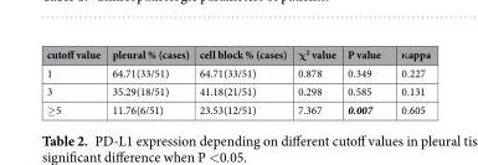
<table><thead><tr><td>cutoff value</td><td>pleural % (cases)</td><td>cell block % (cases)</td><td>χ<sup>2</sup> value</td><td>P value</td><td>κappa</td></tr></thead><tbody><tr><td>1</td><td>64.71(33/51)</td><td>64.71(33/51)</td><td>0.878</td><td>0.349</td><td>0.227</td></tr><tr><td>3</td><td>35.29(18/51)</td><td>41.18(21/51)</td><td>0.298</td><td>0.585</td><td>0.131</td></tr><tr><td>≥5</td><td>11.76(6/51)</td><td>23.53(12/51)</td><td>7.367</td><td>0.007</td><td>0.605</td></tr></tbody></table>